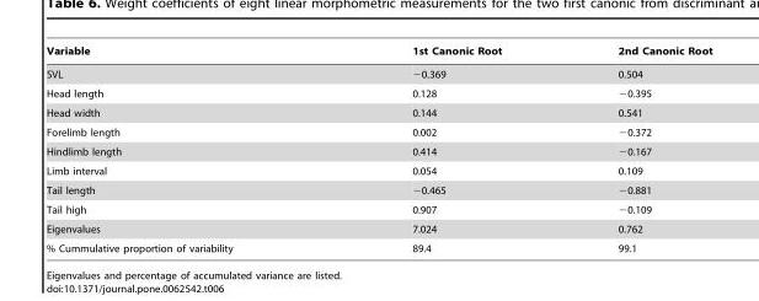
<table><thead><tr><td>Variable</td><td>1st Canonic Root</td><td>2nd Canonic Root</td></tr></thead><tbody><tr><td>SVL</td><td>−0.369</td><td>0.504</td></tr><tr><td>Head length</td><td>0.128</td><td>−0.395</td></tr><tr><td>Head width</td><td>0.144</td><td>0.541</td></tr><tr><td>Forelimb length</td><td>0.002</td><td>−0.372</td></tr><tr><td>Hindlimb length</td><td>0.414</td><td>−0.167</td></tr><tr><td>Limb interval</td><td>0.054</td><td>0.109</td></tr><tr><td>Tail length</td><td>−0.465</td><td>−0.881</td></tr><tr><td>Tail high</td><td>0.907</td><td>−0.109</td></tr><tr><td>Eigenvalues</td><td>7.024</td><td>0.762</td></tr><tr><td>% Cummulative proportion of variability</td><td>89.4</td><td>99.1</td></tr></tbody></table>